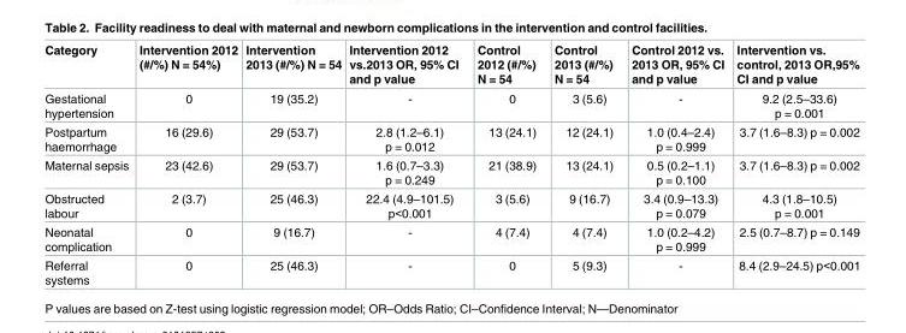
<table><thead><tr><td>Category</td><td>Intervention 2012 (#/%) N = 54%)</td><td>Intervention 2013 (#/%) N = 54</td><td>Intervention 2012 vs.2013 OR, 95% CI and p value</td><td>Control 2012 (#/%) N = 54</td><td>Control 2013 (#/%) N = 54</td><td>Control 2012 vs. 2013 OR, 95% CI and p value</td><td>Intervention vs. control, 2013 OR,95% CI and p value</td></tr></thead><tbody><tr><td>Gestational hypertension</td><td>0</td><td>19 (35.2)</td><td>-</td><td>0</td><td>3 (5.6)</td><td>-</td><td>9.2 (2.5–33.6) p = 0.001</td></tr><tr><td>Postpartum haemorrhage</td><td>16 (29.6)</td><td>29 (53.7)</td><td>2.8 (1.2–6.1) p = 0.012</td><td>13 (24.1)</td><td>12 (24.1)</td><td>1.0 (0.4–2.4) p = 0.999</td><td>3.7 (1.6–8.3) p = 0.002</td></tr><tr><td>Maternal sepsis</td><td>23 (42.6)</td><td>29 (53.7)</td><td>1.6 (0.7–3.3) p = 0.249</td><td>21 (38.9)</td><td>13 (24.1)</td><td>0.5 (0.2–1.1) p = 0.100</td><td>3.7 (1.6–8.3) p = 0.002</td></tr><tr><td>Obstructed labour</td><td>2 (3.7)</td><td>25 (46.3)</td><td>22.4 (4.9–101.5) p&lt;0.001</td><td>3 (5.6)</td><td>9 (16.7)</td><td>3.4 (0.9–13.3) p = 0.079</td><td>4.3 (1.8–10.5) p = 0.001</td></tr><tr><td>Neonatal complication</td><td>0</td><td>9 (16.7)</td><td>-</td><td>4 (7.4)</td><td>4 (7.4)</td><td>1.0 (0.2–4.2) p = 0.999</td><td>2.5 (0.7–8.7) p = 0.149</td></tr><tr><td>Referral systems</td><td>0</td><td>25 (46.3)</td><td>-</td><td>0</td><td>5 (9.3)</td><td>-</td><td>8.4 (2.9–24.5) p&lt;0.001</td></tr></tbody></table>